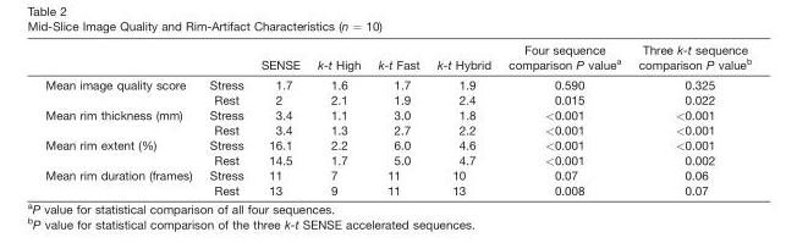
<table><thead><tr><td></td><td></td><td>SENSE</td><td>k-t High</td><td>k-t Fast</td><td>k-t Hybrid</td><td>Four sequence comparison P value<sup>a</sup></td><td>Three k-t sequence comparison P value<sup>b</sup></td></tr></thead><tbody><tr><td rowspan="2">Mean image quality score</td><td>Stress</td><td>1.7</td><td>1.6</td><td>1.7</td><td>1.9</td><td>0.590</td><td>0.325</td></tr><tr><td>Rest</td><td>2</td><td>2.1</td><td>1.9</td><td>2.4</td><td>0.015</td><td>0.022</td></tr><tr><td rowspan="2">Mean rim thickness (mm)</td><td>Stress</td><td>3.4</td><td>1.1</td><td>3.0</td><td>1.8</td><td>&lt;0.001</td><td>&lt;0.001</td></tr><tr><td>Rest</td><td>3.4</td><td>1.3</td><td>2.7</td><td>2.2</td><td>&lt;0.001</td><td>&lt;0.001</td></tr><tr><td rowspan="2">Mean rim extent (%)</td><td>Stress</td><td>16.1</td><td>2.2</td><td>6.0</td><td>4.6</td><td>&lt;0.001</td><td>&lt;0.001</td></tr><tr><td>Rest</td><td>14.5</td><td>1.7</td><td>5.0</td><td>4.7</td><td>&lt;0.001</td><td>0.002</td></tr><tr><td rowspan="2">Mean rim duration (frames)</td><td>Stress</td><td>11</td><td>7</td><td>11</td><td>10</td><td>0.07</td><td>0.06</td></tr><tr><td>Rest</td><td>13</td><td>9</td><td>11</td><td>13</td><td>0.008</td><td>0.07</td></tr></tbody></table>